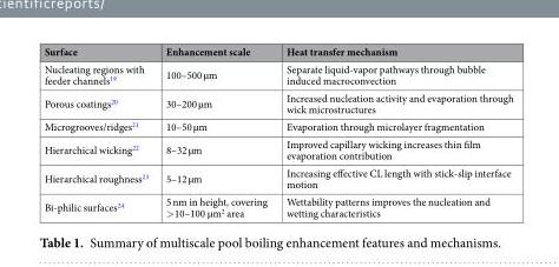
<table><thead><tr><td>Surface</td><td>Enhancement scale</td><td>Heat transfer mechanism</td></tr></thead><tbody><tr><td>Nucleating regions with feeder channels<sup>19</sup></td><td>100–500 µm</td><td>Separate liquid-vapor pathways through bubble induced macroconvection</td></tr><tr><td>Porous coatings<sup>20</sup></td><td>30–200 µm</td><td>Increased nucleation activity and evaporation through wick microstructures</td></tr><tr><td>Microgrooves/ridges<sup>21</sup></td><td>10–50 µm</td><td>Evaporation through microlayer fragmentation</td></tr><tr><td>Hierarchical wicking<sup>22</sup></td><td>8–32 µm</td><td>Improved capillary wicking increases thin film evaporation contribution</td></tr><tr><td>Hierarchical roughness<sup>23</sup></td><td>5–12 µm</td><td>Increasing effective CL length with stick-slip interface motion</td></tr><tr><td>Bi-philic surfaces<sup>24</sup></td><td>5 nm in height, covering &gt;10–100 µm<sup>2</sup> area</td><td>Wettability patterns improves the nucleation and wetting characteristics</td></tr></tbody></table>